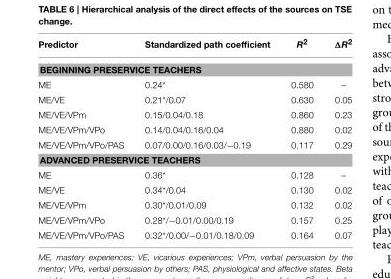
<table><thead><tr><td>Predictor</td><td>Standardized path coefficient</td><td>R<sup>2</sup></td><td>ΔR<sup>2</sup></td></tr></thead><tbody><tr><td colspan="4">BEGINNING PRESERVICE TEACHERS</td></tr><tr><td>ME</td><td>0.24*</td><td>0.580</td><td>–</td></tr><tr><td>ME/VE</td><td>0.21*/0.07</td><td>0.630</td><td>0.05</td></tr><tr><td>ME/VE/VPm</td><td>0.15/0.04/0.18</td><td>0.860</td><td>0.23</td></tr><tr><td>ME/VE/VPm/VPo</td><td>0.14/0.04/0.16/0.04</td><td>0.880</td><td>0.02</td></tr><tr><td>ME/VE/VPm/VPo/PAS</td><td>0.07/0.00/0.16/0.03/−0.19</td><td>0.117</td><td>0.29</td></tr><tr><td colspan="4">ADVANCED PRESERVICE TEACHERS</td></tr><tr><td>ME</td><td>0.36*</td><td>0.128</td><td>–</td></tr><tr><td>ME/VE</td><td>0.34*/0.04</td><td>0.130</td><td>0.02</td></tr><tr><td>ME/VE/VPm</td><td>0.30*/0.01/0.09</td><td>0.132</td><td>0.02</td></tr><tr><td>ME/VE/VPm/VPo</td><td>0.28*/−0.01/0.00/0.19</td><td>0.157</td><td>0.25</td></tr><tr><td>ME/VE/VPm/VPo/PAS</td><td>0.32*/0.00/−0.01/0.18/0.09</td><td>0.164</td><td>0.07</td></tr></tbody></table>